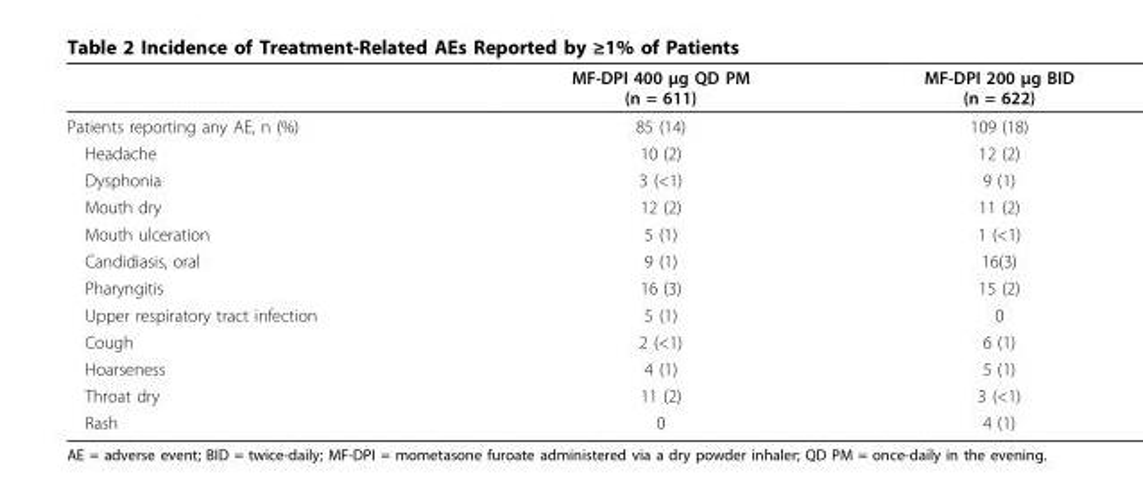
<table><thead><tr><td></td><td>MF-DPI 400 μg QD PM (n = 611)</td><td>MF-DPI 200 μg BID (n = 622)</td></tr></thead><tbody><tr><td>Patients reporting any AE, n (%)</td><td>85 (14)</td><td>109 (18)</td></tr><tr><td>Headache</td><td>10 (2)</td><td>12 (2)</td></tr><tr><td>Dysphonia</td><td>3 (&lt;1)</td><td>9 (1)</td></tr><tr><td>Mouth dry</td><td>12 (2)</td><td>11 (2)</td></tr><tr><td>Mouth ulceration</td><td>5 (1)</td><td>1 (&lt;1)</td></tr><tr><td>Candidiasis, oral</td><td>9 (1)</td><td>16(3)</td></tr><tr><td>Pharyngitis</td><td>16 (3)</td><td>15 (2)</td></tr><tr><td>Upper respiratory tract infection</td><td>5 (1)</td><td>0</td></tr><tr><td>Cough</td><td>2 (&lt;1)</td><td>6 (1)</td></tr><tr><td>Hoarseness</td><td>4 (1)</td><td>5 (1)</td></tr><tr><td>Throat dry</td><td>11 (2)</td><td>3 (&lt;1)</td></tr><tr><td>Rash</td><td>0</td><td>4 (1)</td></tr></tbody></table>